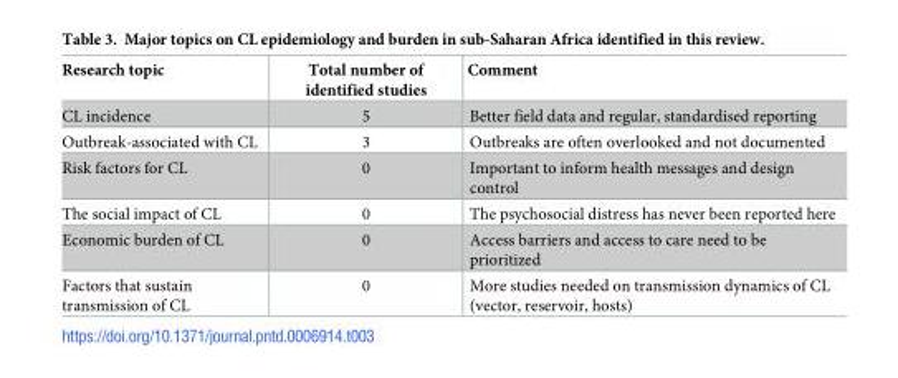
<table><thead><tr><td>Research topic</td><td>Total number of identified studies</td><td>Comment</td></tr></thead><tbody><tr><td>CL incidence</td><td>5</td><td>Better field data and regular, standardised reporting</td></tr><tr><td>Outbreak-associated with CL</td><td>3</td><td>Outbreaks are often overlooked and not documented</td></tr><tr><td>Risk factors for CL</td><td>0</td><td>Important to inform health messages and design control</td></tr><tr><td>The social impact of CL</td><td>0</td><td>The psychosocial distress has never been reported here</td></tr><tr><td>Economic burden of CL</td><td>0</td><td>Access barriers and access to care need to be prioritized</td></tr><tr><td>Factors that sustain transmission of CL</td><td>0</td><td>More studies needed on transmission dynamics of CL (vector, reservoir, hosts)</td></tr></tbody></table>